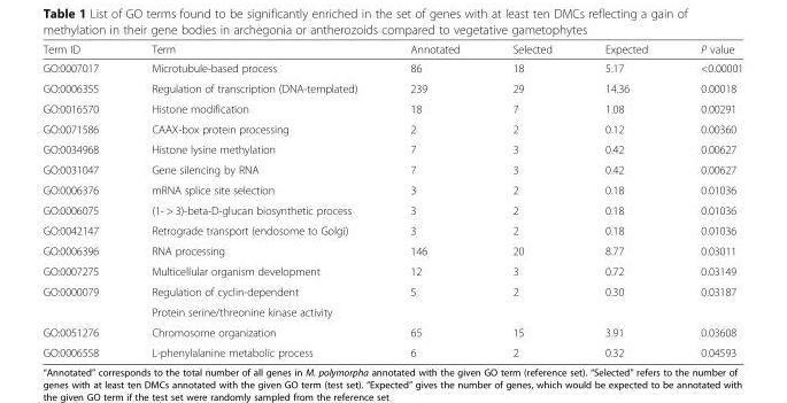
<table><thead><tr><td>Term ID</td><td>Term</td><td>Annotated</td><td>Selected</td><td>Expected</td><td>P value</td></tr></thead><tbody><tr><td>GO:0007017</td><td>Microtubule-based process</td><td>86</td><td>18</td><td>5.17</td><td>&lt;0.00001</td></tr><tr><td>GO:0006355</td><td>Regulation of transcription (DNA-templated)</td><td>239</td><td>29</td><td>14.36</td><td>0.00018</td></tr><tr><td>GO:0016570</td><td>Histone modification</td><td>18</td><td>7</td><td>1.08</td><td>0.00291</td></tr><tr><td>GO:0071586</td><td>CAAX-box protein processing</td><td>2</td><td>2</td><td>0.12</td><td>0.00360</td></tr><tr><td>GO:0034968</td><td>Histone lysine methylation</td><td>7</td><td>3</td><td>0.42</td><td>0.00627</td></tr><tr><td>GO:0031047</td><td>Gene silencing by RNA</td><td>7</td><td>3</td><td>0.42</td><td>0.00627</td></tr><tr><td>GO:0006376</td><td>mRNA splice site selection</td><td>3</td><td>2</td><td>0.18</td><td>0.01036</td></tr><tr><td>GO:0006075</td><td>(1- &gt; 3)-beta-D-glucan biosynthetic process</td><td>3</td><td>2</td><td>0.18</td><td>0.01036</td></tr><tr><td>GO:0042147</td><td>Retrograde transport (endosome to Golgi)</td><td>3</td><td>2</td><td>0.18</td><td>0.01036</td></tr><tr><td>GO:0006396</td><td>RNA processing</td><td>146</td><td>20</td><td>8.77</td><td>0.03011</td></tr><tr><td>GO:0007275</td><td>Multicellular organism development</td><td>12</td><td>3</td><td>0.72</td><td>0.03149</td></tr><tr><td rowspan="2">GO:0000079</td><td>Regulation of cyclin-dependent</td><td>5</td><td>2</td><td>0.30</td><td>0.03187</td></tr><tr><td>Protein serine/threonine kinase activity</td><td></td><td></td><td></td><td></td></tr><tr><td>GO:0051276</td><td>Chromosome organization</td><td>65</td><td>15</td><td>3.91</td><td>0.03608</td></tr><tr><td>GO:0006558</td><td>L-phenylalanine metabolic process</td><td>6</td><td>2</td><td>0.32</td><td>0.04593</td></tr></tbody></table>